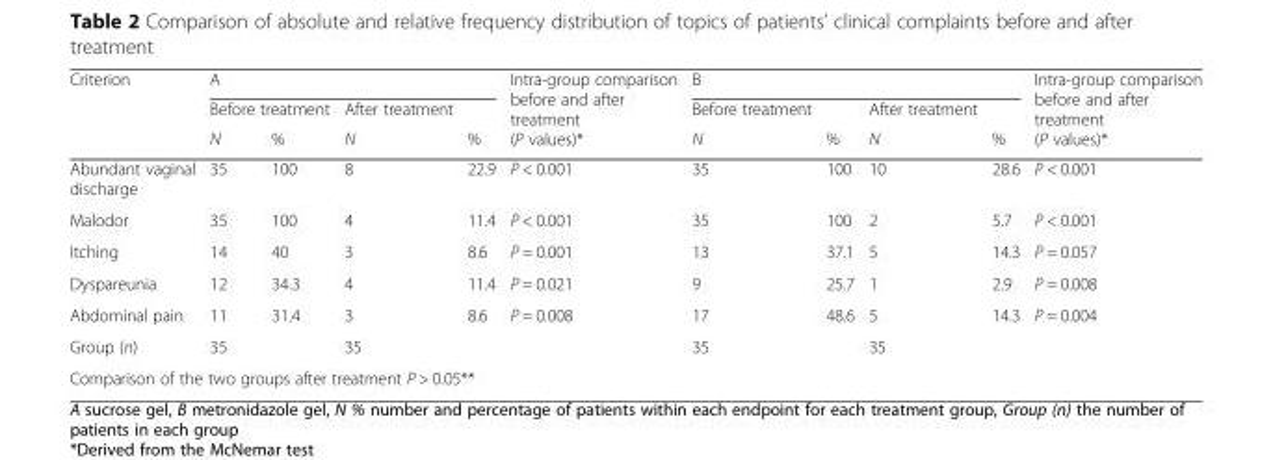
<table><thead><tr><td rowspan="3">Criterion</td><td colspan="4">A</td><td rowspan="3">Intra-group comparison before and after treatment (P values)*</td><td colspan="4">B</td><td rowspan="3">Intra-group comparison before and after treatment (P values)*</td></tr><tr><td colspan="2">Before treatment</td><td rowspan="2">After treatment N</td><td rowspan="2">%</td><td rowspan="2">Before treatment N</td><td rowspan="2">%</td><td rowspan="2">After treatment N</td><td rowspan="2">%</td></tr><tr><td>N</td><td>%</td></tr></thead><tbody><tr><td>Abundant vaginal discharge</td><td>35</td><td>100</td><td>8</td><td>22.9</td><td>P &lt; 0.001</td><td>35</td><td>100</td><td>10</td><td>28.6</td><td>P &lt; 0.001</td></tr><tr><td>Malodor</td><td>35</td><td>100</td><td>4</td><td>11.4</td><td>P &lt; 0.001</td><td>35</td><td>100</td><td>2</td><td>5.7</td><td>P &lt; 0.001</td></tr><tr><td>Itching</td><td>14</td><td>40</td><td>3</td><td>8.6</td><td>P = 0.001</td><td>13</td><td>37.1</td><td>5</td><td>14.3</td><td>P = 0.057</td></tr><tr><td>Dyspareunia</td><td>12</td><td>34.3</td><td>4</td><td>11.4</td><td>P = 0.021</td><td>9</td><td>25.7</td><td>1</td><td>2.9</td><td>P = 0.008</td></tr><tr><td>Abdominal pain</td><td>11</td><td>31.4</td><td>3</td><td>8.6</td><td>P = 0.008</td><td>17</td><td>48.6</td><td>5</td><td>14.3</td><td>P = 0.004</td></tr><tr><td>Group (n)</td><td>35</td><td></td><td>35</td><td></td><td></td><td>35</td><td></td><td>35</td><td></td><td></td></tr><tr><td colspan="11">Comparison of the two groups after treatment P &gt; 0.05**</td></tr></tbody></table>